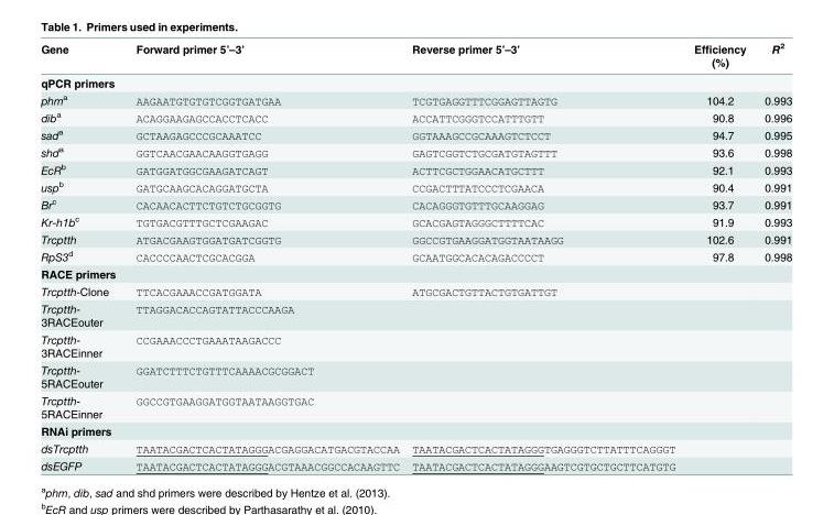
<table><thead><tr><td>Gene</td><td>Forward primer 5’–3’</td><td>Reverse primer 5’–3’</td><td>Efficiency (%)</td><td>R<sup>2</sup></td></tr></thead><tbody><tr><td colspan="5">qPCR primers</td></tr><tr><td>phm<sup>a</sup></td><td>AAGAATGTGTGTCGGTGATGAA</td><td>TCGTGAGGTTTCGGAGTTAGTG</td><td>104.2</td><td>0.993</td></tr><tr><td>dib<sup>a</sup></td><td>ACAGGAAGAGCCACCTCACC</td><td>ACCATTCGGGTCCATTTGTT</td><td>90.8</td><td>0.996</td></tr><tr><td>sad<sup>a</sup></td><td>GCTAAGAGCCCGCAAATCC</td><td>GGTAAAGCCGCAAAGTCTCCT</td><td>94.7</td><td>0.995</td></tr><tr><td>shd<sup>a</sup></td><td>GGTCAACGAACAAGGTGAGG</td><td>GAGTCGGTCTGCGATGTAGTTT</td><td>93.6</td><td>0.998</td></tr><tr><td>EcR<sup>b</sup></td><td>GATGGATGGCGAAGATCAGT</td><td>ACTTCGCTGGAACATGCTTT</td><td>92.1</td><td>0.993</td></tr><tr><td>usp<sup>b</sup></td><td>GATGCAAGCACAGGATGCTA</td><td>CCGACTTTATCCCTCGAACA</td><td>90.4</td><td>0.991</td></tr><tr><td>Br<sup>c</sup></td><td>CACAACACTTCTGTCTGCGGTG</td><td>CACAGGGTGTTTGCAAGGAG</td><td>93.7</td><td>0.991</td></tr><tr><td>Kr-h1b<sup>c</sup></td><td>TGTGACGTTTGCTCGAAGAC</td><td>GCACGAGTAGGGCTTTTCAC</td><td>91.9</td><td>0.993</td></tr><tr><td>Trcptth</td><td>ATGACGAAGTGGATGATCGGTG</td><td>GGCCGTGAAGGATGGTAATAAGG</td><td>102.6</td><td>0.991</td></tr><tr><td>RpS3<sup>d</sup></td><td>CACCCCAACTCGCACGGA</td><td>GCAATGGCACACAGACCCCT</td><td>97.8</td><td>0.998</td></tr><tr><td colspan="5">RACE primers</td></tr><tr><td>Trcptth-Clone</td><td>TTCACGAAACCGATGGATA</td><td>ATGCGACTGTTACTGTGATTGT</td><td></td><td></td></tr><tr><td>Trcptth- 3RACEouter</td><td colspan="2">TTAGGACACCAGTATTACCCAAGA</td><td></td><td></td></tr><tr><td>Trcptth- 3RACEinner</td><td colspan="2">CCGAAACCCTGAAATAAGACCC</td><td></td><td></td></tr><tr><td>Trcptth- 5RACEouter</td><td colspan="2">GGATCTTTCTGTTTCAAAACGCGGACT</td><td></td><td></td></tr><tr><td>Trcptth- 5RACEinner</td><td colspan="2">GGCCGTGAAGGATGGTAATAAGGTGAC</td><td></td><td></td></tr><tr><td colspan="5">RNAi primers</td></tr><tr><td>dsTrcptth</td><td>TAATACGACTCACTATAGGGACGAGGACATGACGTACCAA</td><td>TAATACGACTCACTATAGGGTGAGGGTCTTATTTCAGGGT</td><td></td><td></td></tr><tr><td>dsEGFP</td><td>TAATACGACTCACTATAGGGACGTAAACGGCCACAAGTTC</td><td>TAATACGACTCACTATAGGGAAGTCGTGCTGCTTCATGTG</td><td></td><td></td></tr></tbody></table>